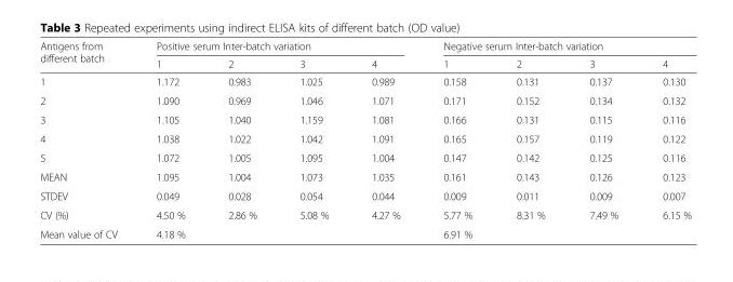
<table><thead><tr><td rowspan="2">Antigens from different batch</td><td colspan="4">Positive serum Inter-batch variation</td><td colspan="4">Negative serum Inter-batch variation</td></tr><tr><td>1</td><td>2</td><td>3</td><td>4</td><td>1</td><td>2</td><td>3</td><td>4</td></tr></thead><tbody><tr><td>1</td><td>1.172</td><td>0.983</td><td>1.025</td><td>0.989</td><td>0.158</td><td>0.131</td><td>0.137</td><td>0.130</td></tr><tr><td>2</td><td>1.090</td><td>0.969</td><td>1.046</td><td>1.071</td><td>0.171</td><td>0.152</td><td>0.134</td><td>0.132</td></tr><tr><td>3</td><td>1.105</td><td>1.040</td><td>1.159</td><td>1.081</td><td>0.166</td><td>0.131</td><td>0.115</td><td>0.116</td></tr><tr><td>4</td><td>1.038</td><td>1.022</td><td>1.042</td><td>1.091</td><td>0.165</td><td>0.157</td><td>0.119</td><td>0.122</td></tr><tr><td>5</td><td>1.072</td><td>1.005</td><td>1.095</td><td>1.004</td><td>0.147</td><td>0.142</td><td>0.125</td><td>0.116</td></tr><tr><td>MEAN</td><td>1.095</td><td>1.004</td><td>1.073</td><td>1.035</td><td>0.161</td><td>0.143</td><td>0.126</td><td>0.123</td></tr><tr><td>STDEV</td><td>0.049</td><td>0.028</td><td>0.054</td><td>0.044</td><td>0.009</td><td>0.011</td><td>0.009</td><td>0.007</td></tr><tr><td>CV (%)</td><td>4.50 %</td><td>2.86 %</td><td>5.08 %</td><td>4.27 %</td><td>5.77 %</td><td>8.31 %</td><td>7.49 %</td><td>6.15 %</td></tr><tr><td>Mean value of CV</td><td colspan="4">4.18 %</td><td colspan="4">6.91 %</td></tr></tbody></table>